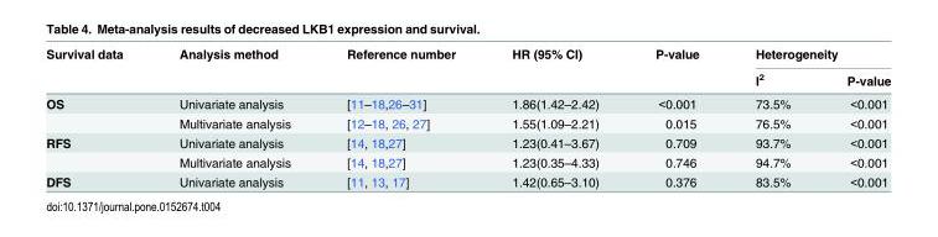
<table><thead><tr><td rowspan="2">Survival data</td><td rowspan="2">Analysis method</td><td rowspan="2">Reference number</td><td rowspan="2">HR (95% CI)</td><td rowspan="2">P-value</td><td colspan="2">Heterogeneity</td></tr><tr><td>I<sup>2</sup></td><td>P-value</td></tr></thead><tbody><tr><td rowspan="2">OS</td><td>Univariate analysis</td><td>[11–18,26–31]</td><td>1.86(1.42–2.42)</td><td>&lt;0.001</td><td>73.5%</td><td>&lt;0.001</td></tr><tr><td>Multivariate analysis</td><td>[12–18, 26, 27]</td><td>1.55(1.09–2.21)</td><td>0.015</td><td>76.5%</td><td>&lt;0.001</td></tr><tr><td rowspan="2">RFS</td><td>Univariate analysis</td><td>[14, 18,27]</td><td>1.23(0.41–3.67)</td><td>0.709</td><td>93.7%</td><td>&lt;0.001</td></tr><tr><td>Multivariate analysis</td><td>[14, 18,27]</td><td>1.23(0.35–4.33)</td><td>0.746</td><td>94.7%</td><td>&lt;0.001</td></tr><tr><td>DFS</td><td>Univariate analysis</td><td>[11, 13, 17]</td><td>1.42(0.65–3.10)</td><td>0.376</td><td>83.5%</td><td>&lt;0.001</td></tr></tbody></table>